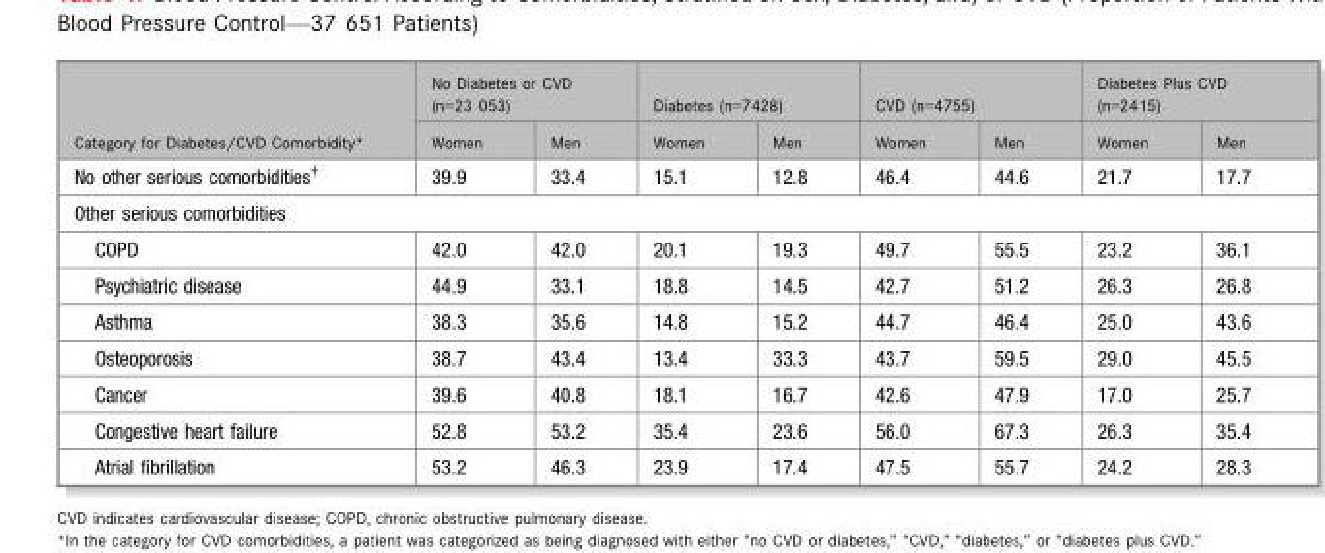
<table><thead><tr><td rowspan="2">Category for Diabetes/CVD Comorbidity*</td><td colspan="2">No Diabetes or CVD (n=23 053)</td><td colspan="2">Diabetes (n=7428)</td><td colspan="2">CVD (n=4755)</td><td colspan="2">Diabetes Plus CVD (n=2415)</td></tr><tr><td>Women</td><td>Men</td><td>Women</td><td>Men</td><td>Women</td><td>Men</td><td>Women</td><td>Men</td></tr></thead><tbody><tr><td>No other serious comorbidities†</td><td>39.9</td><td>33.4</td><td>15.1</td><td>12.8</td><td>46.4</td><td>44.6</td><td>21.7</td><td>17.7</td></tr><tr><td colspan="9">Other serious comorbidities</td></tr><tr><td>COPD</td><td>42.0</td><td>42.0</td><td>20.1</td><td>19.3</td><td>49.7</td><td>55.5</td><td>23.2</td><td>36.1</td></tr><tr><td>Psychiatric disease</td><td>44.9</td><td>33.1</td><td>18.8</td><td>14.5</td><td>42.7</td><td>51.2</td><td>26.3</td><td>26.8</td></tr><tr><td>Asthma</td><td>38.3</td><td>35.6</td><td>14.8</td><td>15.2</td><td>44.7</td><td>46.4</td><td>25.0</td><td>43.6</td></tr><tr><td>Osteoporosis</td><td>38.7</td><td>43.4</td><td>13.4</td><td>33.3</td><td>43.7</td><td>59.5</td><td>29.0</td><td>45.5</td></tr><tr><td>Cancer</td><td>39.6</td><td>40.8</td><td>18.1</td><td>16.7</td><td>42.6</td><td>47.9</td><td>17.0</td><td>25.7</td></tr><tr><td>Congestive heart failure</td><td>52.8</td><td>53.2</td><td>35.4</td><td>23.6</td><td>56.0</td><td>67.3</td><td>26.3</td><td>35.4</td></tr><tr><td>Atrial fibrillation</td><td>53.2</td><td>46.3</td><td>23.9</td><td>17.4</td><td>47.5</td><td>55.7</td><td>24.2</td><td>28.3</td></tr></tbody></table>